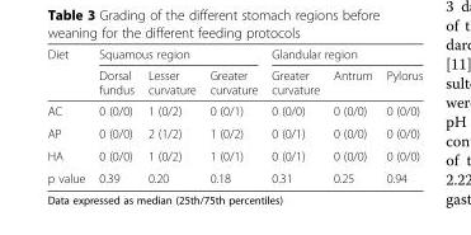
<table><thead><tr><td rowspan="2">Diet</td><td colspan="3">Squamous region</td><td colspan="3">Glandular region</td></tr><tr><td>Dorsal fundus</td><td>Lesser curvature</td><td>Greater curvature</td><td>Greater curvature</td><td>Antrum</td><td>Pylorus</td></tr></thead><tbody><tr><td>AC</td><td>0 (0/0)</td><td>1 (0/2)</td><td>0 (0/1)</td><td>0 (0/0)</td><td>0 (0/0)</td><td>0 (0/0)</td></tr><tr><td>AP</td><td>0 (0/0)</td><td>2 (1/2)</td><td>1 (0/2)</td><td>0 (0/1)</td><td>0 (0/0)</td><td>0 (0/0)</td></tr><tr><td>HA</td><td>0 (0/0)</td><td>1 (0/2)</td><td>1 (0/1)</td><td>0 (0/1)</td><td>0 (0/0)</td><td>0 (0/0)</td></tr><tr><td>p value</td><td>0.39</td><td>0.20</td><td>0.18</td><td>0.31</td><td>0.25</td><td>0.94</td></tr></tbody></table>